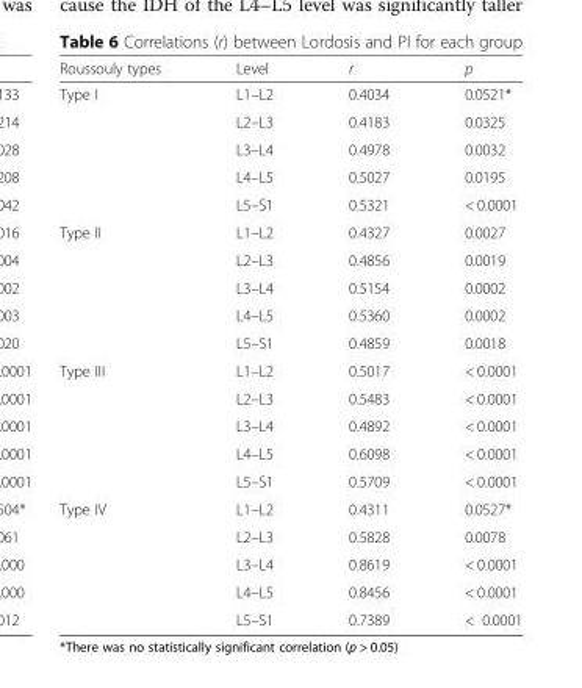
<table><thead><tr><td>Roussouly types</td><td>Level</td><td>r</td><td>p</td></tr></thead><tbody><tr><td rowspan="5">Type I</td><td>L1–L2</td><td>0.4034</td><td>0.0521*</td></tr><tr><td>L2–L3</td><td>0.4183</td><td>0.0325</td></tr><tr><td>L3–L4</td><td>0.4978</td><td>0.0032</td></tr><tr><td>L4–L5</td><td>0.5027</td><td>0.0195</td></tr><tr><td>L5–S1</td><td>0.5321</td><td>&lt; 0.0001</td></tr><tr><td rowspan="5">Type II</td><td>L1–L2</td><td>0.4327</td><td>0.0027</td></tr><tr><td>L2–L3</td><td>0.4856</td><td>0.0019</td></tr><tr><td>L3–L4</td><td>0.5154</td><td>0.0002</td></tr><tr><td>L4–L5</td><td>0.5360</td><td>0.0002</td></tr><tr><td>L5–S1</td><td>0.4859</td><td>0.0018</td></tr><tr><td rowspan="5">Type III</td><td>L1–L2</td><td>0.5017</td><td>&lt; 0.0001</td></tr><tr><td>L2–L3</td><td>0.5483</td><td>&lt; 0.0001</td></tr><tr><td>L3–L4</td><td>0.4892</td><td>&lt; 0.0001</td></tr><tr><td>L4–L5</td><td>0.6098</td><td>&lt; 0.0001</td></tr><tr><td>L5–S1</td><td>0.5709</td><td>&lt; 0.0001</td></tr><tr><td rowspan="5">Type IV</td><td>L1–L2</td><td>0.4311</td><td>0.0527*</td></tr><tr><td>L2–L3</td><td>0.5828</td><td>0.0078</td></tr><tr><td>L3–L4</td><td>0.8619</td><td>&lt; 0.0001</td></tr><tr><td>L4–L5</td><td>0.8456</td><td>&lt; 0.0001</td></tr><tr><td>L5–S1</td><td>0.7389</td><td>&lt; 0.0001</td></tr></tbody></table>